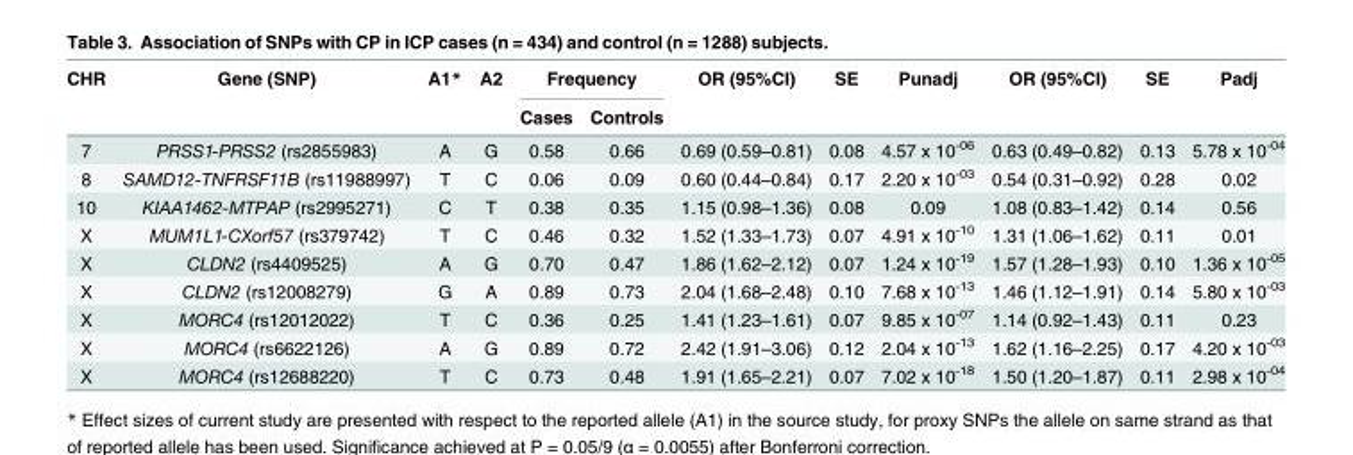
<table><thead><tr><td rowspan="2">CHR</td><td rowspan="2">Gene (SNP)</td><td rowspan="2">A1*</td><td rowspan="2">A2</td><td colspan="2">Frequency</td><td rowspan="2">OR (95%CI)</td><td rowspan="2">SE</td><td rowspan="2">Punadj</td><td rowspan="2">OR (95%CI)</td><td rowspan="2">SE</td><td rowspan="2">Padj</td></tr><tr><td>Cases</td><td>Controls</td></tr></thead><tbody><tr><td>7</td><td>PRSS1-PRSS2 (rs2855983)</td><td>A</td><td>G</td><td>0.58</td><td>0.66</td><td>0.69 (0.59–0.81)</td><td>0.08</td><td>4.57 x 10<sup>-06</sup></td><td>0.63 (0.49–0.82)</td><td>0.13</td><td>5.78 x 10<sup>-04</sup></td></tr><tr><td>8</td><td>SAMD12-TNFRSF11B (rs11988997)</td><td>T</td><td>C</td><td>0.06</td><td>0.09</td><td>0.60 (0.44–0.84)</td><td>0.17</td><td>2.20 x 10<sup>-03</sup></td><td>0.54 (0.31–0.92)</td><td>0.28</td><td>0.02</td></tr><tr><td>10</td><td>KIAA1462-MTPAP (rs2995271)</td><td>C</td><td>T</td><td>0.38</td><td>0.35</td><td>1.15 (0.98–1.36)</td><td>0.08</td><td>0.09</td><td>1.08 (0.83–1.42)</td><td>0.14</td><td>0.56</td></tr><tr><td>X</td><td>MUM1L1-CXorf57 (rs379742)</td><td>T</td><td>C</td><td>0.46</td><td>0.32</td><td>1.52 (1.33–1.73)</td><td>0.07</td><td>4.91 x 10<sup>-10</sup></td><td>1.31 (1.06–1.62)</td><td>0.11</td><td>0.01</td></tr><tr><td>X</td><td>CLDN2 (rs4409525)</td><td>A</td><td>G</td><td>0.70</td><td>0.47</td><td>1.86 (1.62–2.12)</td><td>0.07</td><td>1.24 x 10<sup>-19</sup></td><td>1.57 (1.28–1.93)</td><td>0.10</td><td>1.36 x 10<sup>-05</sup></td></tr><tr><td>X</td><td>CLDN2 (rs12008279)</td><td>G</td><td>A</td><td>0.89</td><td>0.73</td><td>2.04 (1.68–2.48)</td><td>0.10</td><td>7.68 x 10<sup>-13</sup></td><td>1.46 (1.12–1.91)</td><td>0.14</td><td>5.80 x 10<sup>-03</sup></td></tr><tr><td>X</td><td>MORC4 (rs12012022)</td><td>T</td><td>C</td><td>0.36</td><td>0.25</td><td>1.41 (1.23–1.61)</td><td>0.07</td><td>9.85 x 10<sup>-07</sup></td><td>1.14 (0.92–1.43)</td><td>0.11</td><td>0.23</td></tr><tr><td>X</td><td>MORC4 (rs6622126)</td><td>A</td><td>G</td><td>0.89</td><td>0.72</td><td>2.42 (1.91–3.06)</td><td>0.12</td><td>2.04 x 10<sup>-13</sup></td><td>1.62 (1.16–2.25)</td><td>0.17</td><td>4.20 x 10<sup>-03</sup></td></tr><tr><td>X</td><td>MORC4 (rs12688220)</td><td>T</td><td>C</td><td>0.73</td><td>0.48</td><td>1.91 (1.65–2.21)</td><td>0.07</td><td>7.02 x 10<sup>-18</sup></td><td>1.50 (1.20–1.87)</td><td>0.11</td><td>2.98 x 10<sup>-04</sup></td></tr></tbody></table>